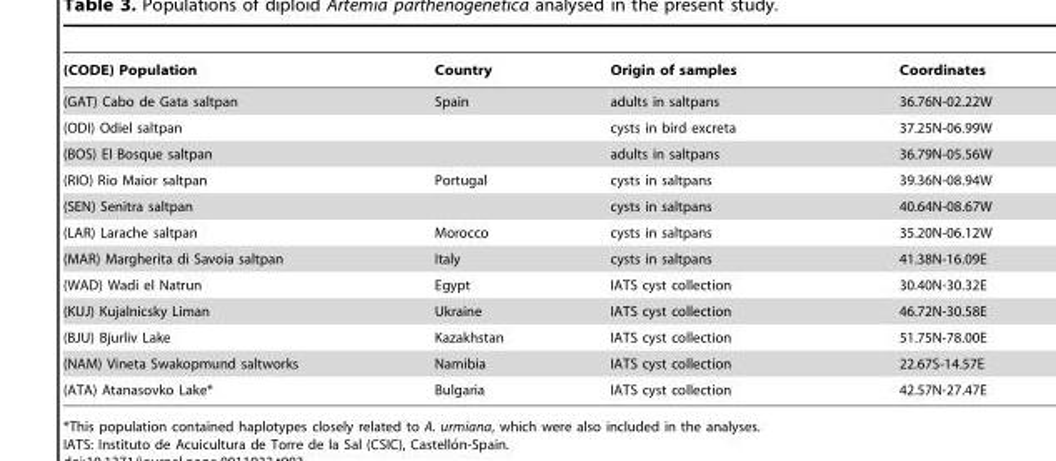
<table><thead><tr><td>(CODE) Population</td><td>Country</td><td>Origin of samples</td><td>Coordinates</td></tr></thead><tbody><tr><td>(GAT) Cabo de Gata saltpan</td><td>Spain</td><td>adults in saltpans</td><td>36.76N-02.22W</td></tr><tr><td>(ODI) Odiel saltpan</td><td></td><td>cysts in bird excreta</td><td>37.25N-06.99W</td></tr><tr><td>(BOS) El Bosque saltpan</td><td></td><td>adults in saltpans</td><td>36.79N-05.56W</td></tr><tr><td>(RIO) Rio Maior saltpan</td><td>Portugal</td><td>cysts in saltpans</td><td>39.36N-08.94W</td></tr><tr><td>(SEN) Senitra saltpan</td><td></td><td>cysts in saltpans</td><td>40.64N-08.67W</td></tr><tr><td>(LAR) Larache saltpan</td><td>Morocco</td><td>cysts in saltpans</td><td>35.20N-06.12W</td></tr><tr><td>(MAR) Margherita di Savoia saltpan</td><td>Italy</td><td>cysts in saltpans</td><td>41.38N-16.09E</td></tr><tr><td>(WAD) Wadi el Natrun</td><td>Egypt</td><td>IATS cyst collection</td><td>30.40N-30.32E</td></tr><tr><td>(KUJ) Kujalnicsky Liman</td><td>Ukraine</td><td>IATS cyst collection</td><td>46.72N-30.58E</td></tr><tr><td>(BJU) Bjurliv Lake</td><td>Kazakhstan</td><td>IATS cyst collection</td><td>51.75N-78.00E</td></tr><tr><td>(NAM) Vineta Swakopmund saltworks</td><td>Namibia</td><td>IATS cyst collection</td><td>22.67S-14.57E</td></tr><tr><td>(ATA) Atanasovko Lake*</td><td>Bulgaria</td><td>IATS cyst collection</td><td>42.57N-27.47E</td></tr></tbody></table>